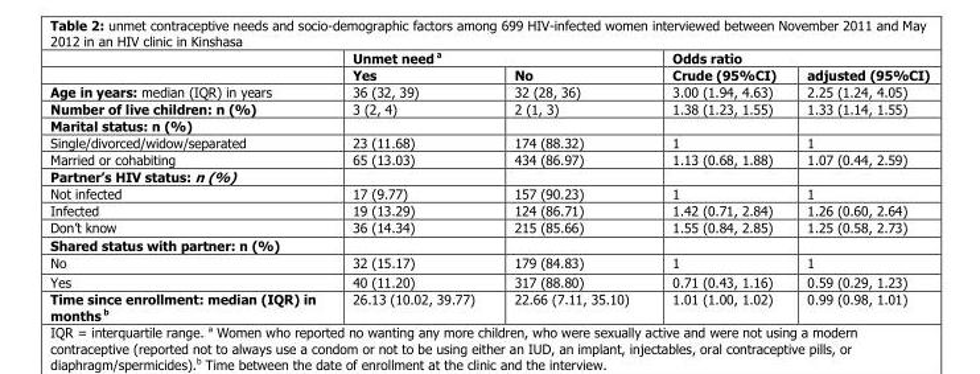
<table><thead><tr><td rowspan="2"></td><td colspan="2">Unmet need a</td><td colspan="2">Odds ratio</td></tr><tr><td>Yes</td><td>No</td><td>Crude (95%CI)</td><td>adjusted (95%CI)</td></tr></thead><tbody><tr><td>Age in years: median (IQR) in years</td><td>36 (32, 39)</td><td>32 (28, 36)</td><td>3.00 (1.94, 4.63)</td><td>2.25 (1.24, 4.05)</td></tr><tr><td>Number of live children: n (%)</td><td>3 (2, 4)</td><td>2 (1, 3)</td><td>1.38 (1.23, 1.55)</td><td>1.33 (1.14, 1.55)</td></tr><tr><td colspan="5">Marital status: n (%)</td></tr><tr><td>Single/divorced/widow/separated</td><td>23 (11.68)</td><td>174 (88.32)</td><td>1</td><td>1</td></tr><tr><td>Married or cohabiting</td><td>65 (13.03)</td><td>434 (86.97)</td><td>1.13 (0.68, 1.88)</td><td>1.07 (0.44, 2.59)</td></tr><tr><td colspan="5">Partner’s HIV status: n (%)</td></tr><tr><td>Not infected</td><td>17 (9.77)</td><td>157 (90.23)</td><td>1</td><td>1</td></tr><tr><td>Infected</td><td>19 (13.29)</td><td>124 (86.71)</td><td>1.42 (0.71, 2.84)</td><td>1.26 (0.60, 2.64)</td></tr><tr><td>Don’t know</td><td>36 (14.34)</td><td>215 (85.66)</td><td>1.55 (0.84, 2.85)</td><td>1.25 (0.58, 2.73)</td></tr><tr><td colspan="5">Shared status with partner: n (%)</td></tr><tr><td>No</td><td>32 (15.17)</td><td>179 (84.83)</td><td>1</td><td>1</td></tr><tr><td>Yes</td><td>40 (11.20)</td><td>317 (88.80)</td><td>0.71 (0.43, 1.16)</td><td>0.59 (0.29, 1.23)</td></tr><tr><td>Time since enrollment: median (IQR) in months b</td><td>26.13 (10.02, 39.77)</td><td>22.66 (7.11, 35.10)</td><td>1.01 (1.00, 1.02)</td><td>0.99 (0.98, 1.01)</td></tr></tbody></table>